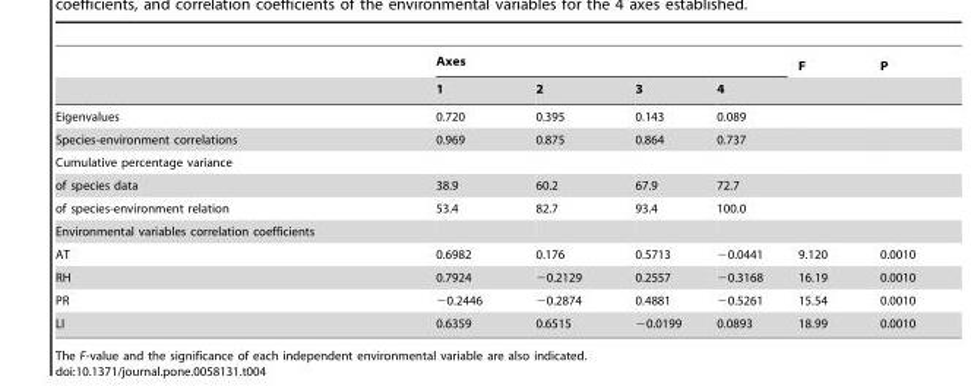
<table><thead><tr><td rowspan="2"></td><td colspan="4">Axes</td><td rowspan="2">F</td><td rowspan="2">P</td></tr><tr><td>1</td><td>2</td><td>3</td><td>4</td></tr></thead><tbody><tr><td>Eigenvalues</td><td>0.720</td><td>0.395</td><td>0.143</td><td>0.089</td><td></td><td></td></tr><tr><td>Species-environment correlations</td><td>0.969</td><td>0.875</td><td>0.864</td><td>0.737</td><td></td><td></td></tr><tr><td colspan="7">Cumulative percentage variance</td></tr><tr><td>of species data</td><td>38.9</td><td>60.2</td><td>67.9</td><td>72.7</td><td></td><td></td></tr><tr><td>of species-environment relation</td><td>53.4</td><td>82.7</td><td>93.4</td><td>100.0</td><td></td><td></td></tr><tr><td colspan="7">Environmental variables correlation coefficients</td></tr><tr><td>AT</td><td>0.6982</td><td>0.176</td><td>0.5713</td><td>−0.0441</td><td>9.120</td><td>0.0010</td></tr><tr><td>RH</td><td>0.7924</td><td>−0.2129</td><td>0.2557</td><td>−0.3168</td><td>16.19</td><td>0.0010</td></tr><tr><td>PR</td><td>−0.2446</td><td>−0.2874</td><td>0.4881</td><td>−0.5261</td><td>15.54</td><td>0.0010</td></tr><tr><td>LI</td><td>0.6359</td><td>0.6515</td><td>−0.0199</td><td>0.0893</td><td>18.99</td><td>0.0010</td></tr></tbody></table>